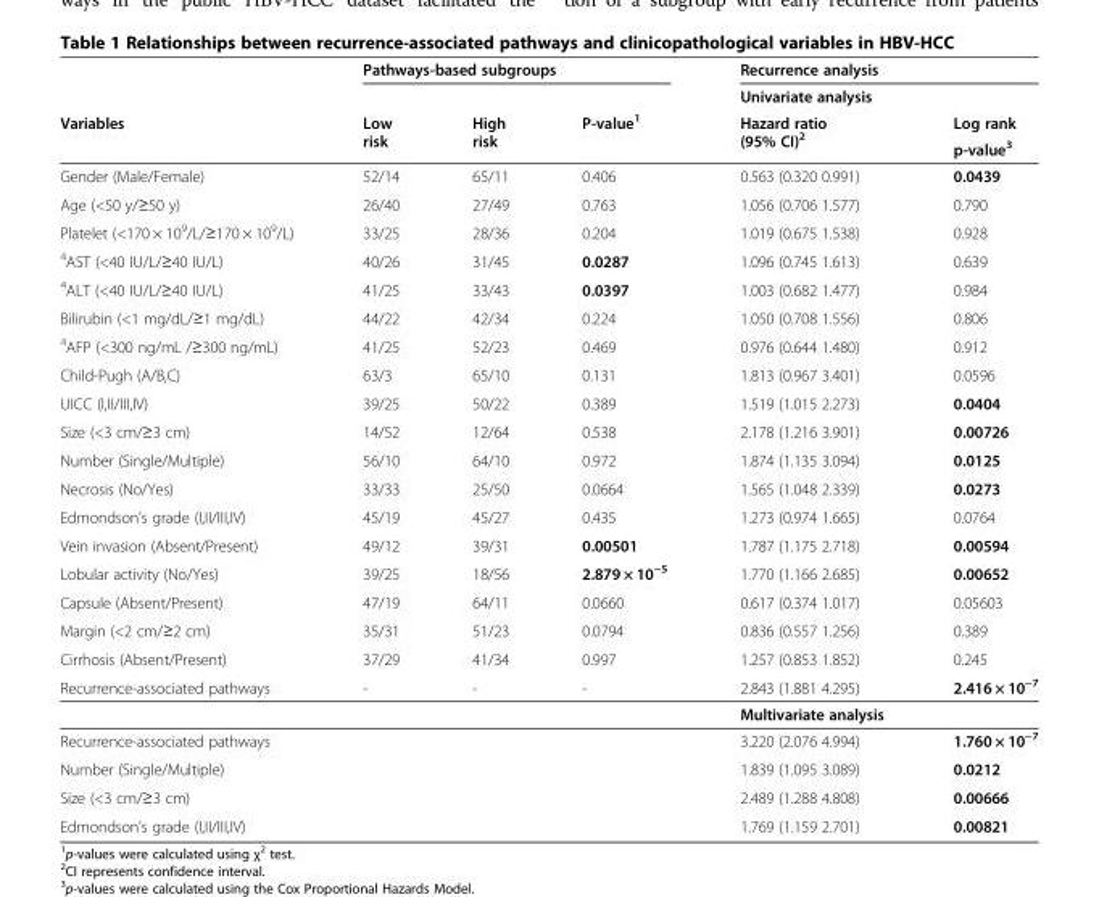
<table><thead><tr><td rowspan="4">Variables</td><td colspan="3">Pathways-based subgroups</td><td colspan="2">Recurrence analysis</td></tr><tr><td rowspan="3">Low risk</td><td rowspan="3">High risk</td><td rowspan="3">P-value<sup>1</sup></td><td rowspan="3">Univariate analysis Hazard ratio (95% CI)<sup>2</sup></td><td rowspan="3">Log rank p-value<sup>3</sup></td></tr><tr></tr><tr></tr></thead><tbody><tr><td>Gender (Male/Female)</td><td>52/14</td><td>65/11</td><td>0.406</td><td>0.563 (0.320 0.991)</td><td>0.0439</td></tr><tr><td>Age (&lt;50 y/≥50 y)</td><td>26/40</td><td>27/49</td><td>0.763</td><td>1.056 (0.706 1.577)</td><td>0.790</td></tr><tr><td>Platelet (&lt;170 × 10<sup>9</sup>/L/≥170 × 10<sup>9</sup>/L)</td><td>33/25</td><td>28/36</td><td>0.204</td><td>1.019 (0.675 1.538)</td><td>0.928</td></tr><tr><td><sup>4</sup>AST (&lt;40 IU/L/≥40 IU/L)</td><td>40/26</td><td>31/45</td><td>0.0287</td><td>1.096 (0.745 1.613)</td><td>0.639</td></tr><tr><td><sup>4</sup>ALT (&lt;40 IU/L/≥40 IU/L)</td><td>41/25</td><td>33/43</td><td>0.0397</td><td>1.003 (0.682 1.477)</td><td>0.984</td></tr><tr><td>Bilirubin (&lt;1 mg/dL/≥1 mg/dL)</td><td>44/22</td><td>42/34</td><td>0.224</td><td>1.050 (0.708 1.556)</td><td>0.806</td></tr><tr><td><sup>4</sup>AFP (&lt;300 ng/mL /≥300 ng/mL)</td><td>41/25</td><td>52/23</td><td>0.469</td><td>0.976 (0.644 1.480)</td><td>0.912</td></tr><tr><td>Child-Pugh (A/B,C)</td><td>63/3</td><td>65/10</td><td>0.131</td><td>1.813 (0.967 3.401)</td><td>0.0596</td></tr><tr><td>UICC (I,II/III,IV)</td><td>39/25</td><td>50/22</td><td>0.389</td><td>1.519 (1.015 2.273)</td><td>0.0404</td></tr><tr><td>Size (&lt;3 cm/≥3 cm)</td><td>14/52</td><td>12/64</td><td>0.538</td><td>2.178 (1.216 3.901)</td><td>0.00726</td></tr><tr><td>Number (Single/Multiple)</td><td>56/10</td><td>64/10</td><td>0.972</td><td>1.874 (1.135 3.094)</td><td>0.0125</td></tr><tr><td>Necrosis (No/Yes)</td><td>33/33</td><td>25/50</td><td>0.0664</td><td>1.565 (1.048 2.339)</td><td>0.0273</td></tr><tr><td>Edmondson’s grade (I,II/III,IV)</td><td>45/19</td><td>45/27</td><td>0.435</td><td>1.273 (0.974 1.665)</td><td>0.0764</td></tr><tr><td>Vein invasion (Absent/Present)</td><td>49/12</td><td>39/31</td><td>0.00501</td><td>1.787 (1.175 2.718)</td><td>0.00594</td></tr><tr><td>Lobular activity (No/Yes)</td><td>39/25</td><td>18/56</td><td>2.879 × 10<sup>−5</sup></td><td>1.770 (1.166 2.685)</td><td>0.00652</td></tr><tr><td>Capsule (Absent/Present)</td><td>47/19</td><td>64/11</td><td>0.0660</td><td>0.617 (0.374 1.017)</td><td>0.05603</td></tr><tr><td>Margin (&lt;2 cm/≥2 cm)</td><td>35/31</td><td>51/23</td><td>0.0794</td><td>0.836 (0.557 1.256)</td><td>0.389</td></tr><tr><td>Cirrhosis (Absent/Present)</td><td>37/29</td><td>41/34</td><td>0.997</td><td>1.257 (0.853 1.852)</td><td>0.245</td></tr><tr><td rowspan="2">Recurrence-associated pathways</td><td>-</td><td>-</td><td>-</td><td>2.843 (1.881 4.295)</td><td>2.416 × 10<sup>−7</sup></td></tr><tr><td></td><td></td><td></td><td>Multivariate analysis</td><td></td></tr><tr><td>Recurrence-associated pathways</td><td></td><td></td><td></td><td>3.220 (2.076 4.994)</td><td>1.760 × 10<sup>−7</sup></td></tr><tr><td>Number (Single/Multiple)</td><td></td><td></td><td></td><td>1.839 (1.095 3.089)</td><td>0.0212</td></tr><tr><td>Size (&lt;3 cm/≥3 cm)</td><td></td><td></td><td></td><td>2.489 (1.288 4.808)</td><td>0.00666</td></tr><tr><td>Edmondson’s grade (I,II/III,IV)</td><td></td><td></td><td></td><td>1.769 (1.159 2.701)</td><td>0.00821</td></tr></tbody></table>